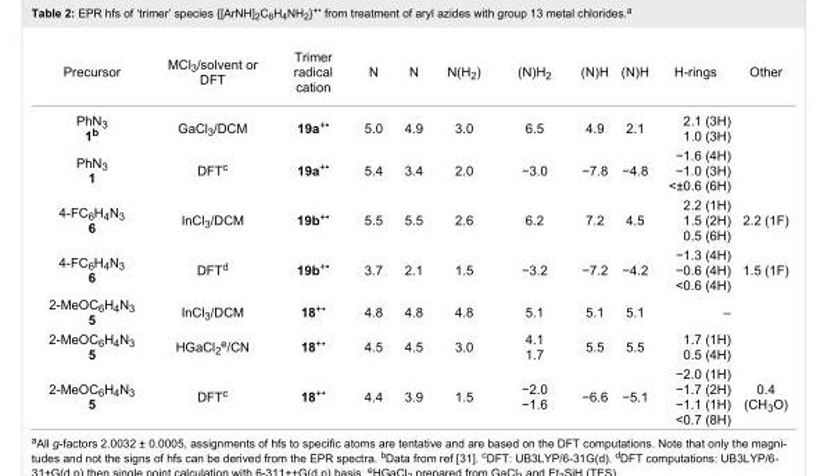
<table><tbody><tr><td>Precursor</td><td>MCl<sub>3</sub>/solvent or DFT</td><td>Trimer radical cation</td><td>N</td><td>N</td><td>N(H<sub>2</sub>)</td><td>(N)H<sub>2</sub></td><td>(N)H</td><td>(N)H</td><td>H-rings</td><td>Other</td></tr><tr><td>PhN<sub>3</sub> 1<sup>b</sup></td><td>GaCl<sub>3</sub>/DCM</td><td>19a<sup>+•</sup></td><td>5.0</td><td>4.9</td><td>3.0</td><td>6.5</td><td>4.9</td><td>2.1</td><td>2.1 (3H) 1.0 (3H)</td><td></td></tr><tr><td>PhN<sub>3</sub> 1</td><td>DFT<sup>c</sup></td><td>19a<sup>+•</sup></td><td>5.4</td><td>3.4</td><td>2.0</td><td>−3.0</td><td>−7.8</td><td>−4.8</td><td>−1.6 (4H) −1.0 (3H) &lt;±0.6 (6H)</td><td></td></tr><tr><td>4-FC<sub>6</sub>H<sub>4</sub>N<sub>3</sub> 6</td><td>InCl<sub>3</sub>/DCM</td><td>19b<sup>+•</sup></td><td>5.5</td><td>5.5</td><td>2.6</td><td>6.2</td><td>7.2</td><td>4.5</td><td>2.2 (1H) 1.5 (2H) 0.5 (6H)</td><td>2.2 (1F)</td></tr><tr><td>4-FC<sub>6</sub>H<sub>4</sub>N<sub>3</sub> 6</td><td>DFT<sup>d</sup></td><td>19b<sup>+•</sup></td><td>3.7</td><td>2.1</td><td>1.5</td><td>−3.2</td><td>−7.2</td><td>−4.2</td><td>−1.3 (4H) −0.6 (4H) &lt;0.6 (4H)</td><td>1.5 (1F)</td></tr><tr><td>2-MeOC<sub>6</sub>H<sub>4</sub>N<sub>3</sub> 5</td><td>InCl<sub>3</sub>/DCM</td><td>18<sup>+•</sup></td><td>4.8</td><td>4.8</td><td>4.8</td><td>5.1</td><td>5.1</td><td>5.1</td><td>–</td><td></td></tr><tr><td>2-MeOC<sub>6</sub>H<sub>4</sub>N<sub>3</sub> 5</td><td>HGaCl<sub>2</sub><sup>e</sup>/CN</td><td>18<sup>+•</sup></td><td>4.5</td><td>4.5</td><td>3.0</td><td>4.1 1.7</td><td>5.5</td><td>5.5</td><td>1.7 (1H) 0.5 (4H)</td><td></td></tr><tr><td>2-MeOC<sub>6</sub>H<sub>4</sub>N<sub>3</sub> 5</td><td>DFT<sup>c</sup></td><td>18<sup>+•</sup></td><td>4.4</td><td>3.9</td><td>1.5</td><td>−2.0 −1.6</td><td>−6.6</td><td>−5.1</td><td>−2.0 (1H) −1.7 (2H) −1.1 (1H) &lt;0.7 (8H)</td><td>0.4 (CH<sub>3</sub>O)</td></tr></tbody></table>